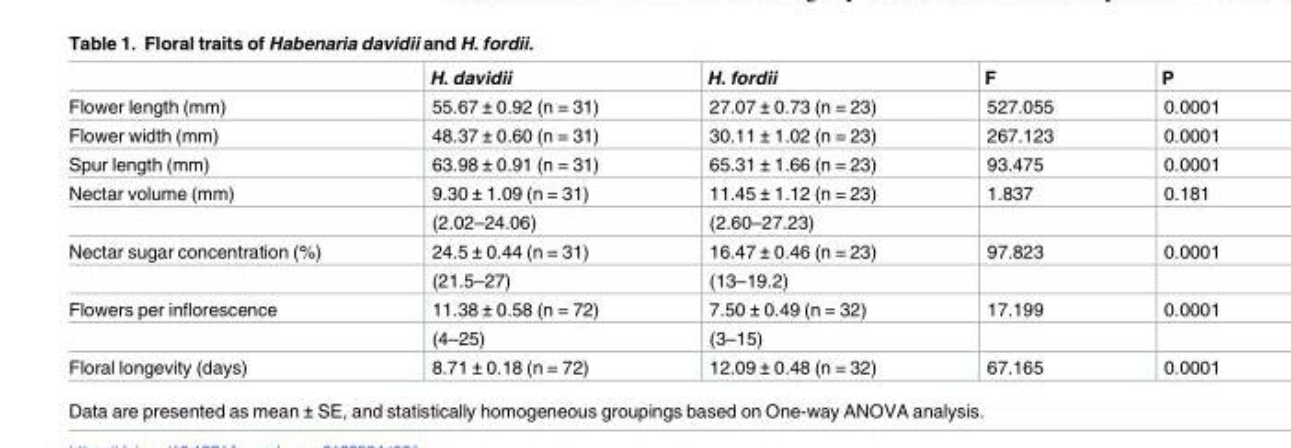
<table><thead><tr><td></td><td>H. davidii</td><td>H. fordii</td><td>F</td><td>P</td></tr></thead><tbody><tr><td>Flower length (mm)</td><td>55.67 ± 0.92 (n = 31)</td><td>27.07 ± 0.73 (n = 23)</td><td>527.055</td><td>0.0001</td></tr><tr><td>Flower width (mm)</td><td>48.37 ± 0.60 (n = 31)</td><td>30.11 ± 1.02 (n = 23)</td><td>267.123</td><td>0.0001</td></tr><tr><td>Spur length (mm)</td><td>63.98 ± 0.91 (n = 31)</td><td>65.31 ± 1.66 (n = 23)</td><td>93.475</td><td>0.0001</td></tr><tr><td rowspan="2">Nectar volume (mm)</td><td>9.30 ± 1.09 (n = 31)</td><td>11.45 ± 1.12 (n = 23)</td><td>1.837</td><td>0.181</td></tr><tr><td>(2.02–24.06)</td><td>(2.60–27.23)</td><td></td><td></td></tr><tr><td rowspan="2">Nectar sugar concentration (%)</td><td>24.5 ± 0.44 (n = 31)</td><td>16.47 ± 0.46 (n = 23)</td><td>97.823</td><td>0.0001</td></tr><tr><td>(21.5–27)</td><td>(13–19.2)</td><td></td><td></td></tr><tr><td rowspan="2">Flowers per inflorescence</td><td>11.38 ± 0.58 (n = 72)</td><td>7.50 ± 0.49 (n = 32)</td><td>17.199</td><td>0.0001</td></tr><tr><td>(4–25)</td><td>(3–15)</td><td></td><td></td></tr><tr><td>Floral longevity (days)</td><td>8.71 ± 0.18 (n = 72)</td><td>12.09 ± 0.48 (n = 32)</td><td>67.165</td><td>0.0001</td></tr></tbody></table>